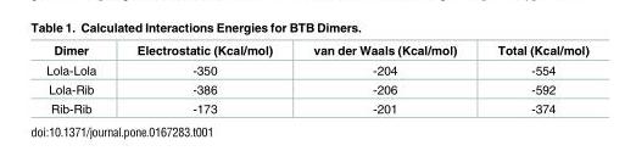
<table><thead><tr><td>Dimer</td><td>Electrostatic (Kcal/mol)</td><td>van der Waals (Kcal/mol)</td><td>Total (Kcal/mol)</td></tr></thead><tbody><tr><td>Lola-Lola</td><td>-350</td><td>-204</td><td>-554</td></tr><tr><td>Lola-Rib</td><td>-386</td><td>-206</td><td>-592</td></tr><tr><td>Rib-Rib</td><td>-173</td><td>-201</td><td>-374</td></tr></tbody></table>